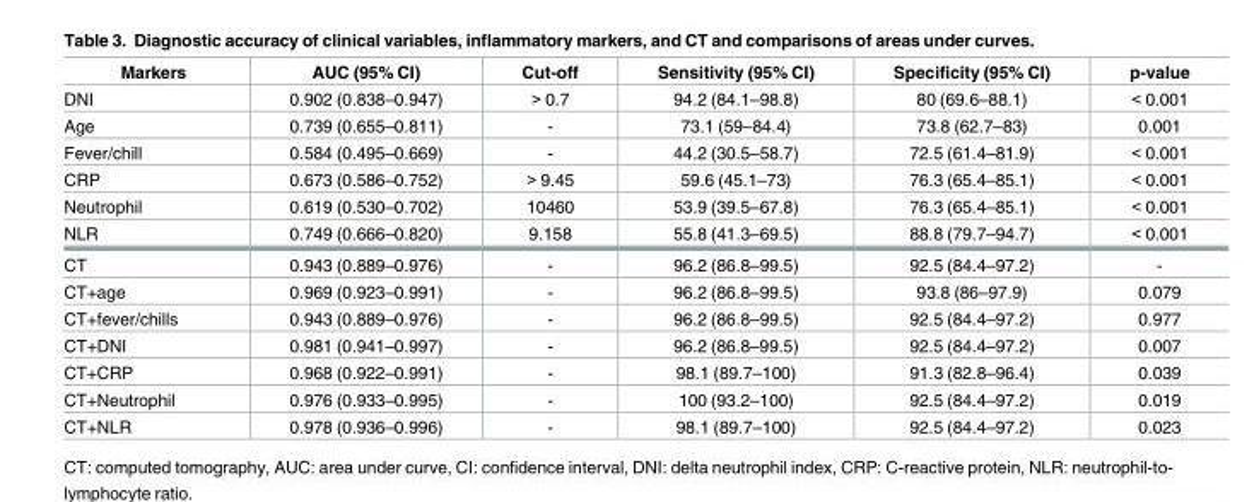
<table><thead><tr><td>Markers</td><td>AUC (95% CI)</td><td>Cut-off</td><td>Sensitivity (95% CI)</td><td>Specificity (95% CI)</td><td>p-value</td></tr></thead><tbody><tr><td>DNI</td><td>0.902 (0.838–0.947)</td><td>&gt; 0.7</td><td>94.2 (84.1–98.8)</td><td>80 (69.6–88.1)</td><td>&lt; 0.001</td></tr><tr><td>Age</td><td>0.739 (0.655–0.811)</td><td>-</td><td>73.1 (59–84.4)</td><td>73.8 (62.7–83)</td><td>0.001</td></tr><tr><td>Fever/chill</td><td>0.584 (0.495–0.669)</td><td>-</td><td>44.2 (30.5–58.7)</td><td>72.5 (61.4–81.9)</td><td>&lt; 0.001</td></tr><tr><td>CRP</td><td>0.673 (0.586–0.752)</td><td>&gt; 9.45</td><td>59.6 (45.1–73)</td><td>76.3 (65.4–85.1)</td><td>&lt; 0.001</td></tr><tr><td>Neutrophil</td><td>0.619 (0.530–0.702)</td><td>10460</td><td>53.9 (39.5–67.8)</td><td>76.3 (65.4–85.1)</td><td>&lt; 0.001</td></tr><tr><td>NLR</td><td>0.749 (0.666–0.820)</td><td>9.158</td><td>55.8 (41.3–69.5)</td><td>88.8 (79.7–94.7)</td><td>&lt; 0.001</td></tr><tr><td>CT</td><td>0.943 (0.889–0.976)</td><td>-</td><td>96.2 (86.8–99.5)</td><td>92.5 (84.4–97.2)</td><td>-</td></tr><tr><td>CT+age</td><td>0.969 (0.923–0.991)</td><td>-</td><td>96.2 (86.8–99.5)</td><td>93.8 (86–97.9)</td><td>0.079</td></tr><tr><td>CT+fever/chills</td><td>0.943 (0.889–0.976)</td><td>-</td><td>96.2 (86.8–99.5)</td><td>92.5 (84.4–97.2)</td><td>0.977</td></tr><tr><td>CT+DNI</td><td>0.981 (0.941–0.997)</td><td>-</td><td>96.2 (86.8–99.5)</td><td>92.5 (84.4–97.2)</td><td>0.007</td></tr><tr><td>CT+CRP</td><td>0.968 (0.922–0.991)</td><td>-</td><td>98.1 (89.7–100)</td><td>91.3 (82.8–96.4)</td><td>0.039</td></tr><tr><td>CT+Neutrophil</td><td>0.976 (0.933–0.995)</td><td>-</td><td>100 (93.2–100)</td><td>92.5 (84.4–97.2)</td><td>0.019</td></tr><tr><td>CT+NLR</td><td>0.978 (0.936–0.996)</td><td>-</td><td>98.1 (89.7–100)</td><td>92.5 (84.4–97.2)</td><td>0.023</td></tr></tbody></table>